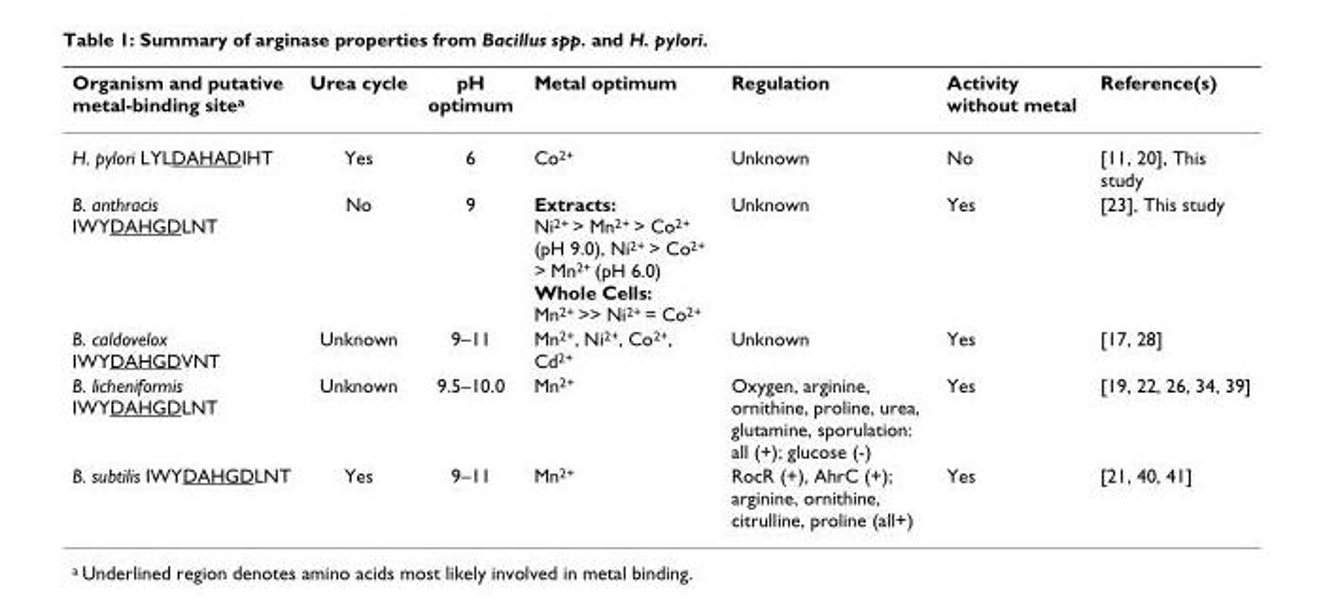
<table><thead><tr><td>Organism and putative metal-binding site<sup>a</sup></td><td>Urea cycle</td><td>pH optimum</td><td>Metal optimum</td><td>Regulation</td><td>Activity without metal</td><td>Reference(s)</td></tr></thead><tbody><tr><td>H. pylori LYLDAHADIHT</td><td>Yes</td><td>6</td><td>Co<sup>2+</sup></td><td>Unknown</td><td>No</td><td>[11, 20], This study</td></tr><tr><td>B. anthracis IWYDAHGDLNT</td><td>No</td><td>9</td><td>Extracts: Ni<sup>2+</sup> &gt; Mn<sup>2+</sup> &gt; Co<sup>2+</sup> (pH 9.0), Ni<sup>2+</sup> &gt; Co<sup>2+</sup> &gt; Mn<sup>2+</sup> (pH 6.0) Whole Cells: Mn<sup>2+</sup> &gt;&gt; Ni<sup>2+</sup> = Co<sup>2+</sup></td><td>Unknown</td><td>Yes</td><td>[23], This study</td></tr><tr><td>B. caldovelox IWYDAHGDVNT</td><td>Unknown</td><td>9–11</td><td>Mn<sup>2+</sup>, Ni<sup>2+</sup>, Co<sup>2+</sup>, Cd<sup>2+</sup></td><td>Unknown</td><td>Yes</td><td>[17, 28]</td></tr><tr><td>B. licheniformis IWYDAHGDLNT</td><td>Unknown</td><td>9.5–10.0</td><td>Mn<sup>2+</sup></td><td>Oxygen, arginine, ornithine, proline, urea, glutamine, sporulation: all (+); glucose (-)</td><td>Yes</td><td>[19, 22, 26, 34, 39]</td></tr><tr><td>B. subtilis IWYDAHGDLNT</td><td>Yes</td><td>9–11</td><td>Mn<sup>2+</sup></td><td>RocR (+), AhrC (+); arginine, ornithine, citrulline, proline (all+)</td><td>Yes</td><td>[21, 40, 41]</td></tr></tbody></table>